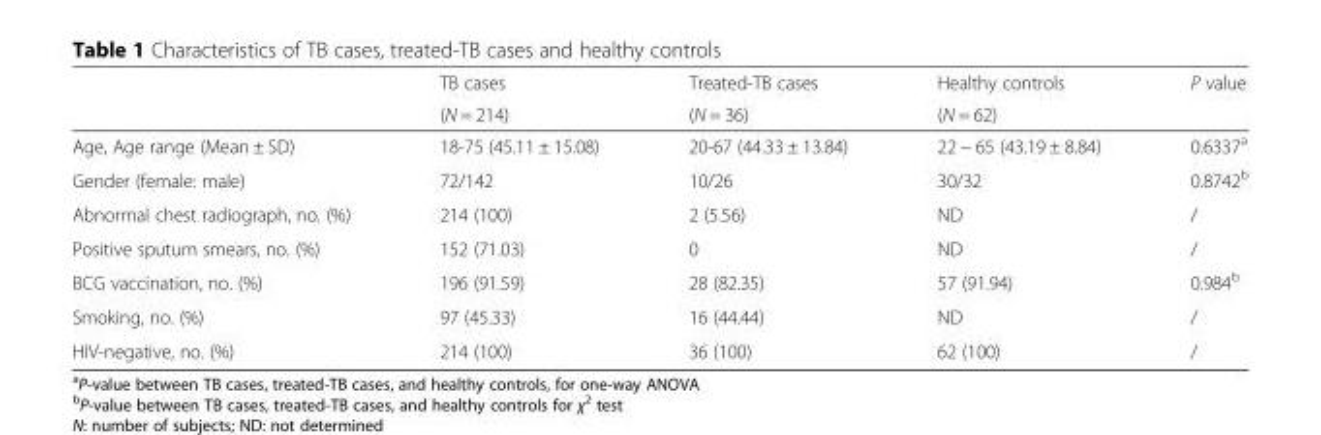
<table><thead><tr><td rowspan="2"></td><td rowspan="2">TB cases (N = 214)</td><td rowspan="2">Treated-TB cases (N = 36)</td><td rowspan="2">Healthy controls (N = 62)</td><td rowspan="2">P value</td></tr><tr></tr></thead><tbody><tr><td>Age, Age range (Mean ± SD)</td><td>18-75 (45.11 ± 15.08)</td><td>20-67 (44.33 ± 13.84)</td><td>22 − 65 (43.19 ± 8.84)</td><td>0.6337<sup>a</sup></td></tr><tr><td>Gender (female: male)</td><td>72/142</td><td>10/26</td><td>30/32</td><td>0.8742<sup>b</sup></td></tr><tr><td>Abnormal chest radiograph, no. (%)</td><td>214 (100)</td><td>2 (5.56)</td><td>ND</td><td>/</td></tr><tr><td>Positive sputum smears, no. (%)</td><td>152 (71.03)</td><td>0</td><td>ND</td><td>/</td></tr><tr><td>BCG vaccination, no. (%)</td><td>196 (91.59)</td><td>28 (82.35)</td><td>57 (91.94)</td><td>0.984<sup>b</sup></td></tr><tr><td>Smoking, no. (%)</td><td>97 (45.33)</td><td>16 (44.44)</td><td>ND</td><td>/</td></tr><tr><td>HIV-negative, no. (%)</td><td>214 (100)</td><td>36 (100)</td><td>62 (100)</td><td>/</td></tr></tbody></table>